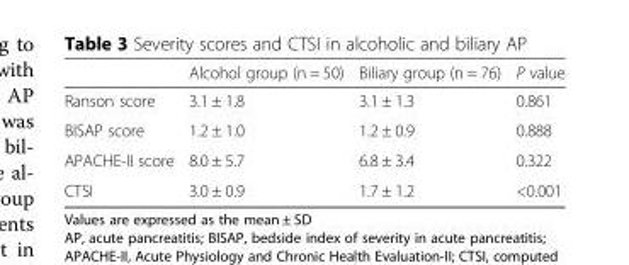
<table><thead><tr><td></td><td>Alcohol group (n = 50)</td><td>Biliary group (n = 76)</td><td>P value</td></tr></thead><tbody><tr><td>Ranson score</td><td>3.1 ± 1.8</td><td>3.1 ± 1.3</td><td>0.861</td></tr><tr><td>BISAP score</td><td>1.2 ± 1.0</td><td>1.2 ± 0.9</td><td>0.888</td></tr><tr><td>APACHE-II score</td><td>8.0 ± 5.7</td><td>6.8 ± 3.4</td><td>0.322</td></tr><tr><td>CTSI</td><td>3.0 ± 0.9</td><td>1.7 ± 1.2</td><td>&lt;0.001</td></tr></tbody></table>